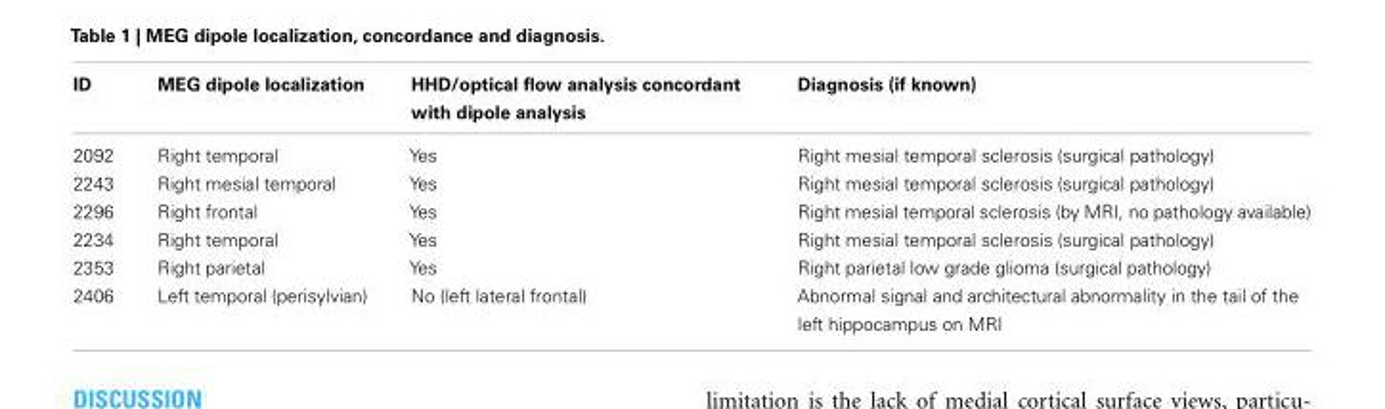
<table><thead><tr><td>ID</td><td>MEG dipole localization</td><td>HHD/optical flow analysis concordant with dipole analysis</td><td>Diagnosis (if known)</td></tr></thead><tbody><tr><td>2092</td><td>Right temporal</td><td>Yes</td><td>Right mesial temporal sclerosis (surgical pathology)</td></tr><tr><td>2243</td><td>Right mesial temporal</td><td>Yes</td><td>Right mesial temporal sclerosis (surgical pathology)</td></tr><tr><td>2296</td><td>Right frontal</td><td>Yes</td><td>Right mesial temporal sclerosis (by MRI, no pathology available)</td></tr><tr><td>2234</td><td>Right temporal</td><td>Yes</td><td>Right mesial temporal sclerosis (surgical pathology)</td></tr><tr><td>2353</td><td>Right parietal</td><td>Yes</td><td>Right parietal low grade glioma (surgical pathology)</td></tr><tr><td>2406</td><td>Left temporal (perisylvian)</td><td>No (left lateral frontal)</td><td>Abnormal signal and architectural abnormality in the tail of the left hippocampus on MRI</td></tr></tbody></table>